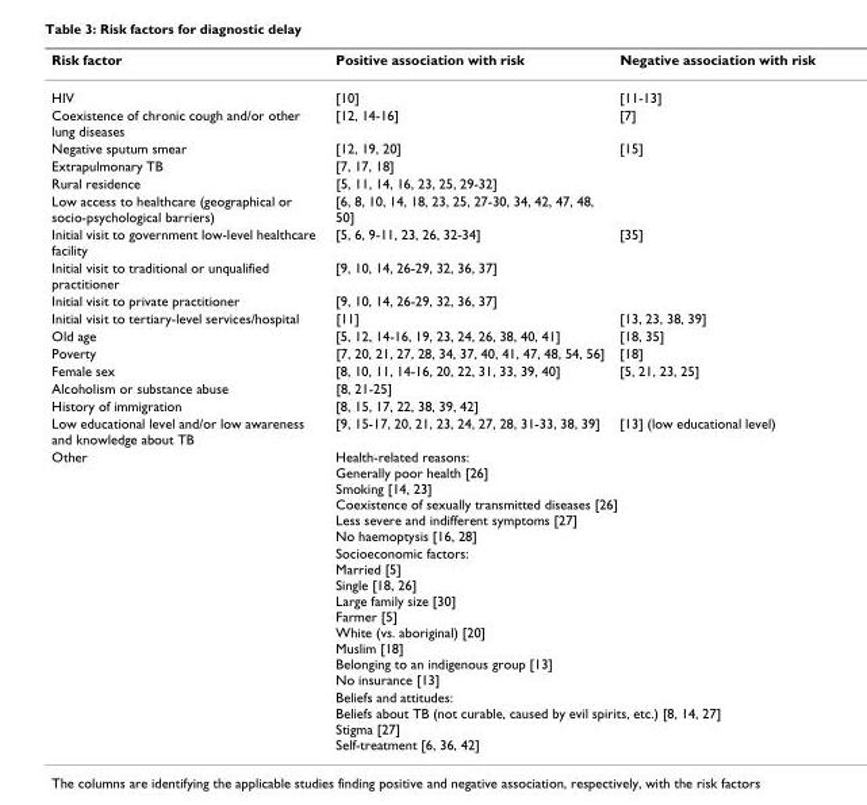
<table><thead><tr><td>Risk factor</td><td>Positive association with risk</td><td>Negative association with risk</td></tr></thead><tbody><tr><td>HIV</td><td>[10]</td><td>[11-13]</td></tr><tr><td>Coexistence of chronic cough and/or other lung diseases</td><td>[12, 14-16]</td><td>[7]</td></tr><tr><td>Negative sputum smear</td><td>[12, 19, 20]</td><td>[15]</td></tr><tr><td>Extrapulmonary TB</td><td>[7, 17, 18]</td><td></td></tr><tr><td>Rural residence</td><td>[5, 11, 14, 16, 23, 25, 29-32]</td><td></td></tr><tr><td>Low access to healthcare (geographical or socio-psychological barriers)</td><td>[6, 8, 10, 14, 18, 23, 25, 27-30, 34, 42, 47, 48, 50]</td><td></td></tr><tr><td>Initial visit to government low-level healthcare facility</td><td>[5, 6, 9-11, 23, 26, 32-34]</td><td>[35]</td></tr><tr><td>Initial visit to traditional or unqualified practitioner</td><td>[9, 10, 14, 26-29, 32, 36, 37]</td><td></td></tr><tr><td>Initial visit to private practitioner</td><td>[9, 10, 14, 26-29, 32, 36, 37]</td><td></td></tr><tr><td>Initial visit to tertiary-level services/hospital</td><td>[11]</td><td>[13, 23, 38, 39]</td></tr><tr><td>Old age</td><td>[5, 12, 14-16, 19, 23, 24, 26, 38, 40, 41]</td><td>[18, 35]</td></tr><tr><td>Poverty</td><td>[7, 20, 21, 27, 28, 34, 37, 40, 41, 47, 48, 54, 56]</td><td>[18]</td></tr><tr><td>Female sex</td><td>[8, 10, 11, 14-16, 20, 22, 31, 33, 39, 40]</td><td>[5, 21, 23, 25]</td></tr><tr><td>Alcoholism or substance abuse</td><td>[8, 21-25]</td><td></td></tr><tr><td>History of immigration</td><td>[8, 15, 17, 22, 38, 39, 42]</td><td></td></tr><tr><td>Low educational level and/or low awareness and knowledge about TB</td><td>[9, 15-17, 20, 21, 23, 24, 27, 28, 31-33, 38, 39]</td><td>[13] (low educational level)</td></tr><tr><td rowspan="3">Other</td><td colspan="2">Health-related reasons: Generally poor health [26] Smoking [14, 23] Coexistence of sexually transmitted diseases [26] Less severe and indifferent symptoms [27] No haemoptysis [16, 28]</td></tr><tr><td colspan="2">Socioeconomic factors: Married [5] Single [18, 26] Large family size [30] Farmer [5] White (vs. aboriginal) [20] Muslim [18] Belonging to an indigenous group [13] No insurance [13]</td></tr><tr><td colspan="2">Beliefs and attitudes: Beliefs about TB (not curable, caused by evil spirits, etc.) [8, 14, 27] Stigma [27] Self-treatment [6, 36, 42]</td></tr></tbody></table>